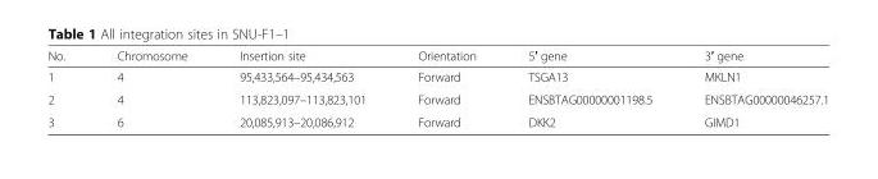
<table><thead><tr><td>No.</td><td>Chromosome</td><td>Insertion site</td><td>Orientation</td><td>5′ gene</td><td>3′ gene</td></tr></thead><tbody><tr><td>1</td><td>4</td><td>95,433,564–95,434,563</td><td>Forward</td><td>TSGA13</td><td>MKLN1</td></tr><tr><td>2</td><td>4</td><td>113,823,097–113,823,101</td><td>Forward</td><td>ENSBTAG00000001198.5</td><td>ENSBTAG00000046257.1</td></tr><tr><td>3</td><td>6</td><td>20,085,913–20,086,912</td><td>Forward</td><td>DKK2</td><td>GIMD1</td></tr></tbody></table>